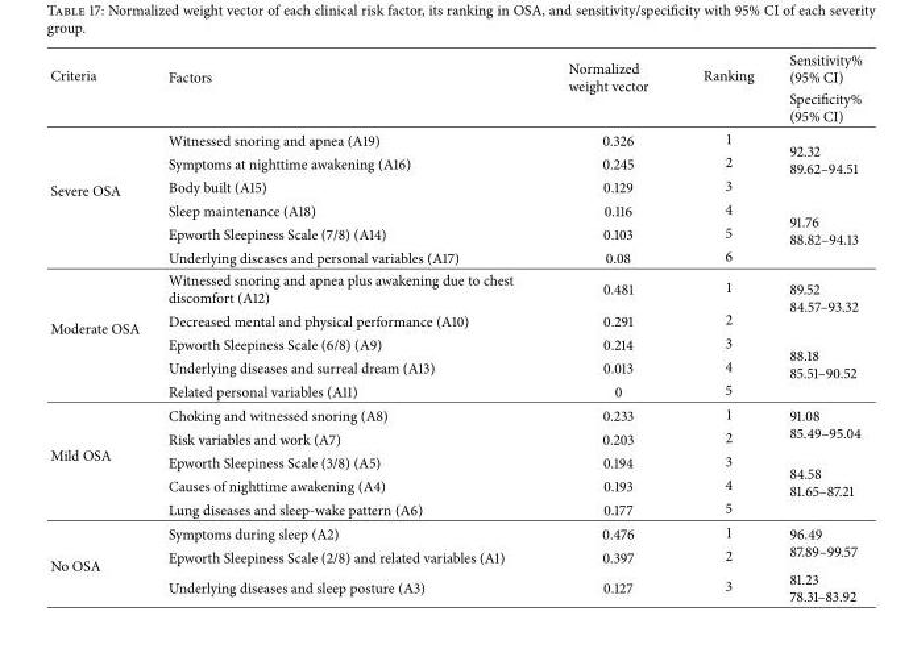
<table><thead><tr><td rowspan="2">Criteria</td><td rowspan="2">Factors</td><td rowspan="2">Normalized weight vector</td><td rowspan="2">Ranking</td><td rowspan="2">Sensitivity% (95% CI) Specificity% (95% CI)</td></tr><tr></tr></thead><tbody><tr><td rowspan="6">Severe OSA</td><td>Witnessed snoring and apnea (A19)</td><td>0.326</td><td>1</td><td rowspan="3">92.32 89.62–94.51</td></tr><tr><td>Symptoms at nighttime awakening (A16)</td><td>0.245</td><td>2</td></tr><tr><td>Body built (A15)</td><td>0.129</td><td>3</td></tr><tr><td>Sleep maintenance (A18)</td><td>0.116</td><td>4</td><td rowspan="3">91.76 88.82–94.13</td></tr><tr><td>Epworth Sleepiness Scale (7/8) (A14)</td><td>0.103</td><td>5</td></tr><tr><td>Underlying diseases and personal variables (A17)</td><td>0.08</td><td>6</td></tr><tr><td rowspan="5">Moderate OSA</td><td>Witnessed snoring and apnea plus awakening due to chest discomfort (A12)</td><td>0.481</td><td>1</td><td rowspan="2">89.52 84.57–93.32</td></tr><tr><td>Decreased mental and physical performance (A10)</td><td>0.291</td><td>2</td></tr><tr><td>Epworth Sleepiness Scale (6/8) (A9)</td><td>0.214</td><td>3</td><td rowspan="3">88.18 85.51–90.52</td></tr><tr><td>Underlying diseases and surreal dream (A13)</td><td>0.013</td><td>4</td></tr><tr><td>Related personal variables (A11)</td><td>0</td><td>5</td></tr><tr><td rowspan="5">Mild OSA</td><td>Choking and witnessed snoring (A8)</td><td>0.233</td><td>1</td><td rowspan="2">91.08 85.49–95.04</td></tr><tr><td>Risk variables and work (A7)</td><td>0.203</td><td>2</td></tr><tr><td>Epworth Sleepiness Scale (3/8) (A5)</td><td>0.194</td><td>3</td><td rowspan="3">84.58 81.65–87.21</td></tr><tr><td>Causes of nighttime awakening (A4)</td><td>0.193</td><td>4</td></tr><tr><td>Lung diseases and sleep-wake pattern (A6)</td><td>0.177</td><td>5</td></tr><tr><td rowspan="3">No OSA</td><td>Symptoms during sleep (A2)</td><td>0.476</td><td>1</td><td rowspan="2">96.49 87.89–99.57</td></tr><tr><td>Epworth Sleepiness Scale (2/8) and related variables (A1)</td><td>0.397</td><td>2</td></tr><tr><td>Underlying diseases and sleep posture (A3)</td><td>0.127</td><td>3</td><td>81.23 78.31–83.92</td></tr></tbody></table>